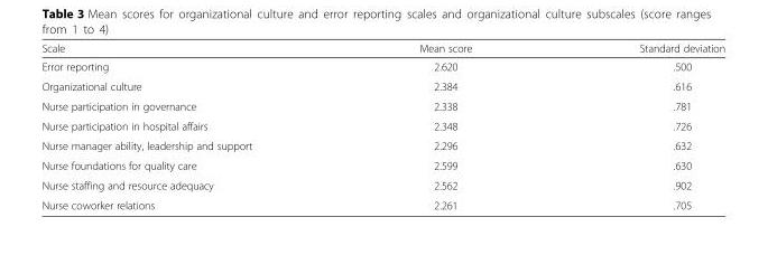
<table><thead><tr><td>Scale</td><td>Mean score</td><td>Standard deviation</td></tr></thead><tbody><tr><td>Error reporting</td><td>2.620</td><td>.500</td></tr><tr><td>Organizational culture</td><td>2.384</td><td>.616</td></tr><tr><td>Nurse participation in governance</td><td>2.338</td><td>.781</td></tr><tr><td>Nurse participation in hospital affairs</td><td>2.348</td><td>.726</td></tr><tr><td>Nurse manager ability, leadership and support</td><td>2.296</td><td>.632</td></tr><tr><td>Nurse foundations for quality care</td><td>2.599</td><td>.630</td></tr><tr><td>Nurse staffing and resource adequacy</td><td>2.562</td><td>.902</td></tr><tr><td>Nurse coworker relations</td><td>2.261</td><td>.705</td></tr></tbody></table>